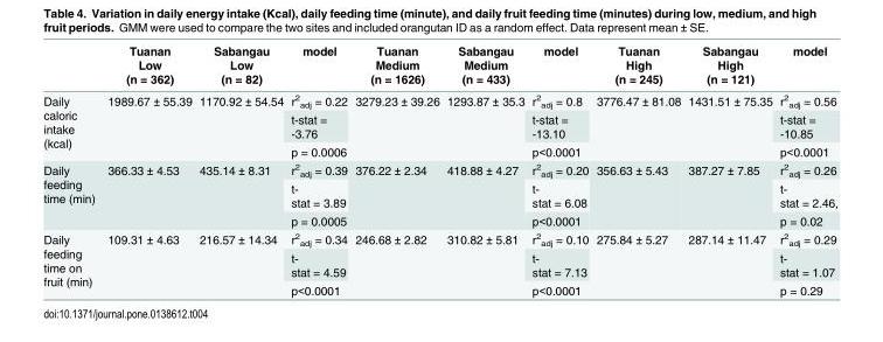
<table><thead><tr><td rowspan="3"></td><td rowspan="3">Tuanan Low (n = 362)</td><td rowspan="3">Sabangau Low (n = 82)</td><td rowspan="3">model</td><td rowspan="3">Tuanan Medium (n = 1626)</td><td rowspan="3">Sabangau Medium (n = 433)</td><td rowspan="3">model</td><td rowspan="3">Tuanan High (n = 245)</td><td rowspan="3">Sabangau High (n = 121)</td><td rowspan="3">model</td></tr><tr></tr><tr></tr></thead><tbody><tr><td rowspan="3">Daily caloric intake (kcal)</td><td rowspan="3">1989.67 ± 55.39</td><td rowspan="3">1170.92 ± 54.54</td><td>r<sup>2</sup> <sub>adj</sub> = 0.22</td><td rowspan="3">3279.23 ± 39.26</td><td rowspan="3">1293.87 ± 35.3</td><td>r<sup>2</sup> <sub>adj</sub> = 0.8</td><td rowspan="3">3776.47 ± 81.08</td><td rowspan="3">1431.51 ± 75.35</td><td>r<sup>2</sup> <sub>adj</sub> = 0.56</td></tr><tr><td>t-stat = -3.76</td><td>t-stat = -13.10</td><td>t-stat = -10.85</td></tr><tr><td>p = 0.0006</td><td>p&lt;0.0001</td><td>p&lt;0.0001</td></tr><tr><td rowspan="3">Daily feeding time (min)</td><td rowspan="3">366.33 ± 4.53</td><td rowspan="3">435.14 ± 8.31</td><td>r<sup>2</sup> <sub>adj</sub> = 0.39</td><td rowspan="3">376.22 ± 2.34</td><td rowspan="3">418.88 ± 4.27</td><td>r<sup>2</sup> <sub>adj</sub> = 0.20</td><td rowspan="3">356.63 ± 5.43</td><td rowspan="3">387.27 ± 7.85</td><td>r<sup>2</sup> <sub>adj</sub> = 0.26</td></tr><tr><td>t- stat = 3.89</td><td>t- stat = 6.08</td><td>t- stat = 2.46,</td></tr><tr><td>p = 0.0005</td><td>p&lt;0.0001</td><td>p = 0.02</td></tr><tr><td rowspan="3">Daily feeding time on fruit (min)</td><td rowspan="3">109.31 ± 4.63</td><td rowspan="3">216.57 ± 14.34</td><td>r<sup>2</sup> <sub>adj</sub> = 0.34</td><td rowspan="3">246.68 ± 2.82</td><td rowspan="3">310.82 ± 5.81</td><td>r<sup>2</sup> <sub>adj</sub> = 0.10</td><td rowspan="3">275.84 ± 5.27</td><td rowspan="3">287.14 ± 11.47</td><td>r<sup>2</sup> <sub>adj</sub> = 0.29</td></tr><tr><td>t- stat = 4.59</td><td>t- stat = 7.13</td><td>t- stat = 1.07</td></tr><tr><td>p&lt;0.0001</td><td>p&lt;0.0001</td><td>p = 0.29</td></tr></tbody></table>